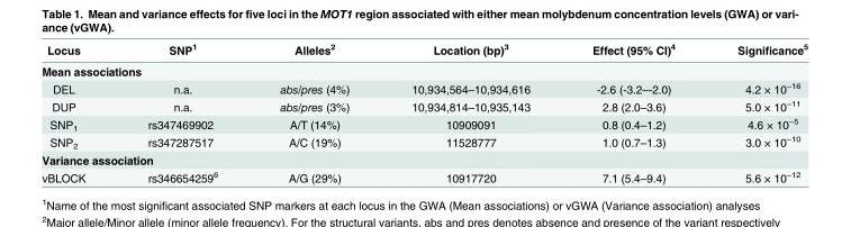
<table><thead><tr><td>Locus</td><td>SNP<sup>1</sup></td><td>Alleles<sup>2</sup></td><td>Location (bp)<sup>3</sup></td><td>Effect (95% CI)<sup>4</sup></td><td>Significance<sup>5</sup></td></tr></thead><tbody><tr><td colspan="6">Mean associations</td></tr><tr><td>DEL</td><td>n.a.</td><td>abs/pres (4%)</td><td>10,934,564–10,934,616</td><td>-2.6 (-3.2–-2.0)</td><td>4.2 × 10<sup>−16</sup></td></tr><tr><td>DUP</td><td>n.a.</td><td>abs/pres (3%)</td><td>10,934,814–10,935,143</td><td>2.8 (2.0–3.6)</td><td>5.0 × 10<sup>−11</sup></td></tr><tr><td>SNP<sub>1</sub></td><td>rs347469902</td><td>A/T (14%)</td><td>10909091</td><td>0.8 (0.4–1.2)</td><td>4.6 × 10<sup>−5</sup></td></tr><tr><td>SNP<sub>2</sub></td><td>rs347287517</td><td>A/C (19%)</td><td>11528777</td><td>1.0 (0.7–1.3)</td><td>3.0 × 10<sup>−10</sup></td></tr><tr><td colspan="6">Variance association</td></tr><tr><td>vBLOCK</td><td>rs346654259<sup>6</sup></td><td>A/G (29%)</td><td>10917720</td><td>7.1 (5.4–9.4)</td><td>5.6 × 10<sup>−12</sup></td></tr></tbody></table>